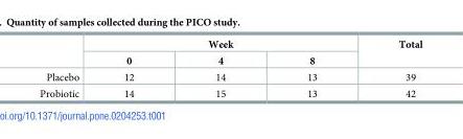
<table><thead><tr><td rowspan="2"></td><td colspan="3">Week</td><td rowspan="2">Total</td></tr><tr><td>0</td><td>4</td><td>8</td></tr></thead><tbody><tr><td>Placebo</td><td>12</td><td>14</td><td>13</td><td>39</td></tr><tr><td>Probiotic</td><td>14</td><td>15</td><td>13</td><td>42</td></tr></tbody></table>